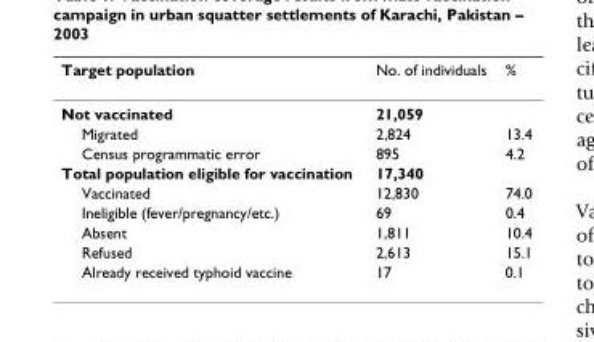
<table><thead><tr><td>Target population</td><td>No. of individuals</td><td>%</td></tr></thead><tbody><tr><td>Not vaccinated</td><td>21,059</td><td></td></tr><tr><td>Migrated</td><td>2,824</td><td>13.4</td></tr><tr><td>Census programmatic error</td><td>895</td><td>4.2</td></tr><tr><td>Total population eligible for vaccination</td><td>17,340</td><td></td></tr><tr><td>Vaccinated</td><td>12,830</td><td>74.0</td></tr><tr><td>Ineligible (fever/pregnancy/etc.)</td><td>69</td><td>0.4</td></tr><tr><td>Absent</td><td>1,811</td><td>10.4</td></tr><tr><td>Refused</td><td>2,613</td><td>15.1</td></tr><tr><td>Already received typhoid vaccine</td><td>17</td><td>0.1</td></tr></tbody></table>